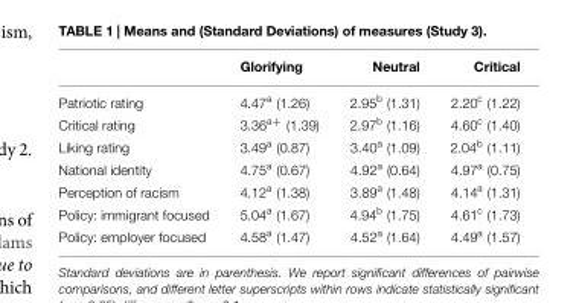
<table><thead><tr><td></td><td>Glorifying</td><td>Neutral</td><td>Critical</td></tr></thead><tbody><tr><td>Patriotic rating</td><td>4.47<sup>a</sup> (1.26)</td><td>2.95<sup>b</sup> (1.31)</td><td>2.20<sup>c</sup> (1.22)</td></tr><tr><td>Critical rating</td><td>3.36<sup>a+</sup> (1.39)</td><td>2.97<sup>b</sup> (1.16)</td><td>4.60<sup>c</sup> (1.40)</td></tr><tr><td>Liking rating</td><td>3.49<sup>a</sup> (0.87)</td><td>3.40<sup>a</sup> (1.09)</td><td>2.04<sup>b</sup> (1.11)</td></tr><tr><td>National identity</td><td>4.75<sup>a</sup> (0.67)</td><td>4.92<sup>a</sup> (0.64)</td><td>4.97<sup>a</sup> (0.75)</td></tr><tr><td>Perception of racism</td><td>4.12<sup>a</sup> (1.38)</td><td>3.89<sup>a</sup> (1.48)</td><td>4.14<sup>a</sup> (1.31)</td></tr><tr><td>Policy: immigrant focused</td><td>5.04<sup>a</sup> (1.67)</td><td>4.94<sup>b</sup> (1.75)</td><td>4.61<sup>c</sup> (1.73)</td></tr><tr><td>Policy: employer focused</td><td>4.58<sup>a</sup> (1.47)</td><td>4.52<sup>a</sup> (1.64)</td><td>4.49<sup>a</sup> (1.57)</td></tr></tbody></table>